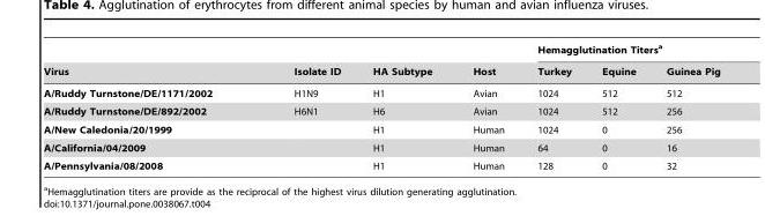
<table><thead><tr><td rowspan="2">Virus</td><td rowspan="2">Isolate ID</td><td rowspan="2">HA Subtype</td><td rowspan="2">Host</td><td colspan="3">Hemagglutination Titers<sup>a</sup></td></tr><tr><td>Turkey</td><td>Equine</td><td>Guinea Pig</td></tr></thead><tbody><tr><td>A/Ruddy Turnstone/DE/1171/2002</td><td>H1N9</td><td>H1</td><td>Avian</td><td>1024</td><td>512</td><td>512</td></tr><tr><td>A/Ruddy Turnstone/DE/892/2002</td><td>H6N1</td><td>H6</td><td>Avian</td><td>1024</td><td>512</td><td>256</td></tr><tr><td>A/New Caledonia/20/1999</td><td></td><td>H1</td><td>Human</td><td>1024</td><td>0</td><td>256</td></tr><tr><td>A/California/04/2009</td><td></td><td>H1</td><td>Human</td><td>64</td><td>0</td><td>16</td></tr><tr><td>A/Pennsylvania/08/2008</td><td></td><td>H1</td><td>Human</td><td>128</td><td>0</td><td>32</td></tr></tbody></table>